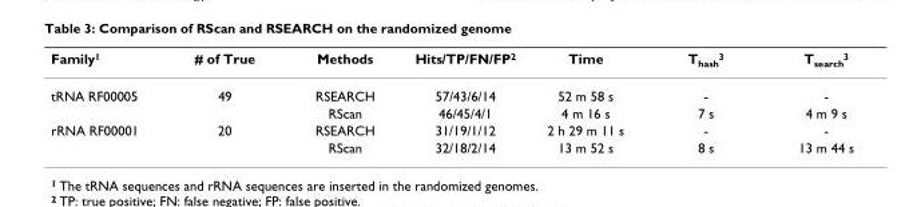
<table><thead><tr><td>Family<sup>1</sup></td><td># of True</td><td>Methods</td><td>Hits/TP/FN/FP<sup>2</sup></td><td>Time</td><td>T<sub>hash</sub><sup>3</sup></td><td>T<sub>search</sub><sup>3</sup></td></tr></thead><tbody><tr><td rowspan="2">tRNA RF00005</td><td>49</td><td>RSEARCH</td><td>57/43/6/14</td><td>52 m 58 s</td><td>-</td><td>-</td></tr><tr><td></td><td>RScan</td><td>46/45/4/1</td><td>4 m 16 s</td><td>7 s</td><td>4 m 9 s</td></tr><tr><td rowspan="2">rRNA RF00001</td><td>20</td><td>RSEARCH</td><td>31/19/1/12</td><td>2 h 29 m 11 s</td><td>-</td><td>-</td></tr><tr><td></td><td>RScan</td><td>32/18/2/14</td><td>13 m 52 s</td><td>8 s</td><td>13 m 44 s</td></tr></tbody></table>